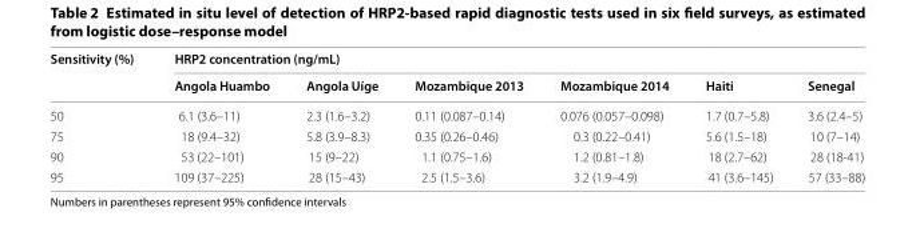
<table><thead><tr><td rowspan="2">Sensitivity (%)</td><td colspan="6">HRP2 concentration (ng/mL)</td></tr><tr><td>Angola Huambo</td><td>Angola Uíge</td><td>Mozambique 2013</td><td>Mozambique 2014</td><td>Haiti</td><td>Senegal</td></tr></thead><tbody><tr><td>50</td><td>6.1 (3.6–11)</td><td>2.3 (1.6–3.2)</td><td>0.11 (0.087–0.14)</td><td>0.076 (0.057–0.098)</td><td>1.7 (0.7–5.8)</td><td>3.6 (2.4–5)</td></tr><tr><td>75</td><td>18 (9.4–32)</td><td>5.8 (3.9–8.3)</td><td>0.35 (0.26–0.46)</td><td>0.3 (0.22–0.41)</td><td>5.6 (1.5–18)</td><td>10 (7–14)</td></tr><tr><td>90</td><td>53 (22–101)</td><td>15 (9–22)</td><td>1.1 (0.75–1.6)</td><td>1.2 (0.81–1.8)</td><td>18 (2.7–62)</td><td>28 (18-41)</td></tr><tr><td>95</td><td>109 (37–225)</td><td>28 (15–43)</td><td>2.5 (1.5–3.6)</td><td>3.2 (1.9–4.9)</td><td>41 (3.6–145)</td><td>57 (33–88)</td></tr></tbody></table>